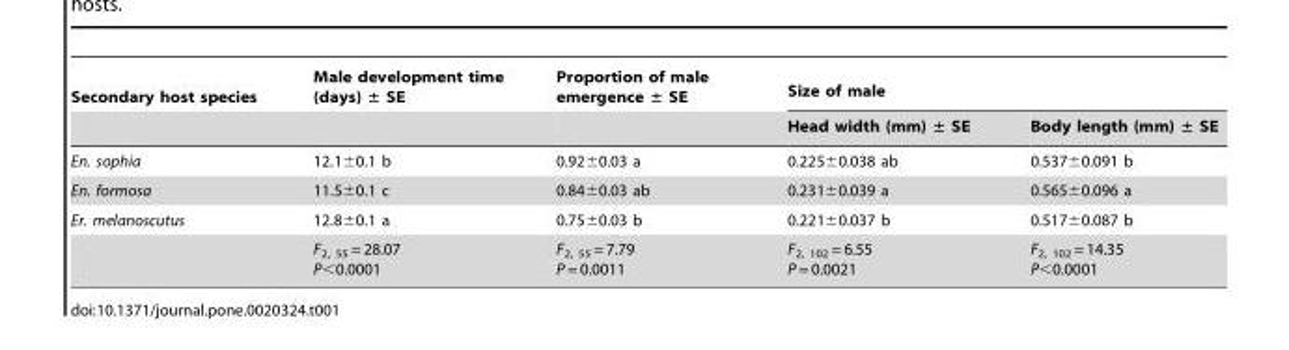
<table><thead><tr><td rowspan="2">Secondary host species</td><td rowspan="2">Male development time (days) ± SE</td><td rowspan="2">Proportion of male emergence ± SE</td><td colspan="2">Size of male</td></tr><tr><td>Head width (mm) ± SE</td><td>Body length (mm) ± SE</td></tr></thead><tbody><tr><td>En. sophia</td><td>12.1±0.1 b</td><td>0.92±0.03 a</td><td>0.225±0.038 ab</td><td>0.537±0.091 b</td></tr><tr><td>En. formosa</td><td>11.5±0.1 c</td><td>0.84±0.03 ab</td><td>0.231±0.039 a</td><td>0.565±0.096 a</td></tr><tr><td rowspan="2">Er. melanoscutus</td><td>12.8±0.1 a</td><td>0.75±0.03 b</td><td>0.221±0.037 b</td><td>0.517±0.087 b</td></tr><tr><td>F<sub>2, 55</sub> = 28.07 P&lt;0.0001</td><td>F<sub>2, 55</sub> = 7.79 P = 0.0011</td><td>F<sub>2, 102</sub> = 6.55 P = 0.0021</td><td>F<sub>2, 102</sub> = 14.35 P&lt;0.0001</td></tr></tbody></table>